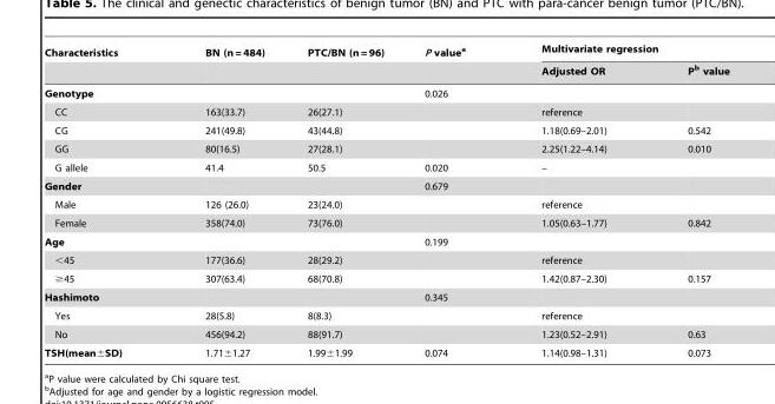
<table><thead><tr><td rowspan="2">Characteristics</td><td rowspan="2">BN (n = 484)</td><td rowspan="2">PTC/BN (n = 96)</td><td rowspan="2">P value<sup>a</sup></td><td colspan="2">Multivariate regression</td></tr><tr><td>Adjusted OR</td><td>P<sup>b</sup> value</td></tr></thead><tbody><tr><td>Genotype</td><td></td><td></td><td>0.026</td><td></td><td></td></tr><tr><td>CC</td><td>163(33.7)</td><td>26(27.1)</td><td></td><td>reference</td><td></td></tr><tr><td>CG</td><td>241(49.8)</td><td>43(44.8)</td><td></td><td>1.18(0.69–2.01)</td><td>0.542</td></tr><tr><td>GG</td><td>80(16.5)</td><td>27(28.1)</td><td></td><td>2.25(1.22–4.14)</td><td>0.010</td></tr><tr><td>G allele</td><td>41.4</td><td>50.5</td><td>0.020</td><td>–</td><td></td></tr><tr><td>Gender</td><td></td><td></td><td>0.679</td><td></td><td></td></tr><tr><td>Male</td><td>126 (26.0)</td><td>23(24.0)</td><td></td><td>reference</td><td></td></tr><tr><td>Female</td><td>358(74.0)</td><td>73(76.0)</td><td></td><td>1.05(0.63–1.77)</td><td>0.842</td></tr><tr><td>Age</td><td></td><td></td><td>0.199</td><td></td><td></td></tr><tr><td>&lt;45</td><td>177(36.6)</td><td>28(29.2)</td><td></td><td>reference</td><td></td></tr><tr><td>≥45</td><td>307(63.4)</td><td>68(70.8)</td><td></td><td>1.42(0.87–2.30)</td><td>0.157</td></tr><tr><td>Hashimoto</td><td></td><td></td><td>0.345</td><td></td><td></td></tr><tr><td>Yes</td><td>28(5.8)</td><td>8(8.3)</td><td></td><td>reference</td><td></td></tr><tr><td>No</td><td>456(94.2)</td><td>88(91.7)</td><td></td><td>1.23(0.52–2.91)</td><td>0.63</td></tr><tr><td>TSH(mean±SD)</td><td>1.71±1.27</td><td>1.99±1.99</td><td>0.074</td><td>1.14(0.98–1.31)</td><td>0.073</td></tr></tbody></table>